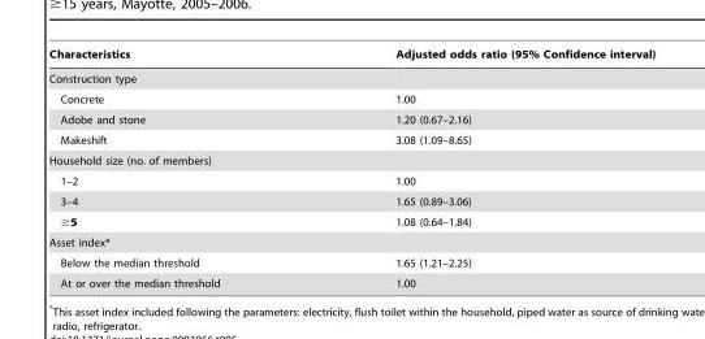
<table><thead><tr><td>Characteristics</td><td>Adjusted odds ratio (95% Confidence interval)</td></tr></thead><tbody><tr><td colspan="2">Construction type</td></tr><tr><td>Concrete</td><td>1.00</td></tr><tr><td>Adobe and stone</td><td>1.20 (0.67–2.16)</td></tr><tr><td>Makeshift</td><td>3.08 (1.09–8.65)</td></tr><tr><td colspan="2">Household size (no. of members)</td></tr><tr><td>1–2</td><td>1.00</td></tr><tr><td>3–4</td><td>1.65 (0.89–3.06)</td></tr><tr><td>≥5</td><td>1.08 (0.64–1.84)</td></tr><tr><td colspan="2">Asset index*</td></tr><tr><td>Below the median threshold</td><td>1.65 (1.21–2.25)</td></tr><tr><td>At or over the median threshold</td><td>1.00</td></tr></tbody></table>